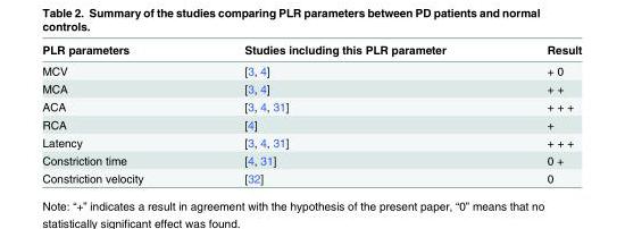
<table><thead><tr><td>PLR parameters</td><td>Studies including this PLR parameter</td><td>Result</td></tr></thead><tbody><tr><td>MCV</td><td>[3, 4]</td><td>+ 0</td></tr><tr><td>MCA</td><td>[3, 4]</td><td>+ +</td></tr><tr><td>ACA</td><td>[3, 4, 31]</td><td>+ + +</td></tr><tr><td>RCA</td><td>[4]</td><td>+</td></tr><tr><td>Latency</td><td>[3, 4, 31]</td><td>+ + +</td></tr><tr><td>Constriction time</td><td>[4, 31]</td><td>0 +</td></tr><tr><td>Constriction velocity</td><td>[32]</td><td>0</td></tr></tbody></table>